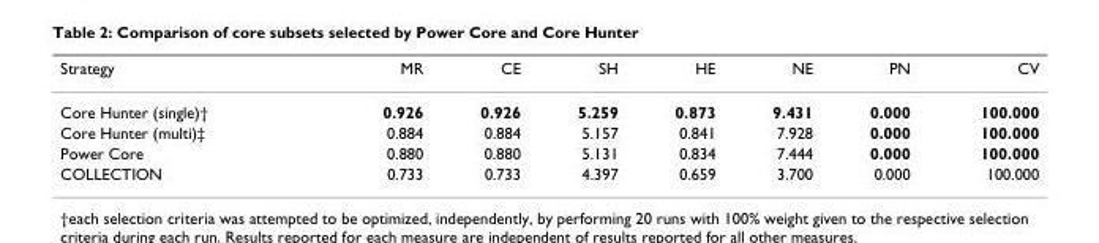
<table><thead><tr><td>Strategy</td><td>MR</td><td>CE</td><td>SH</td><td>HE</td><td>NE</td><td>PN</td><td>CV</td></tr></thead><tbody><tr><td>Core Hunter (single)†</td><td>0.926</td><td>0.926</td><td>5.259</td><td>0.873</td><td>9.431</td><td>0.000</td><td>100.000</td></tr><tr><td>Core Hunter (multi)‡</td><td>0.884</td><td>0.884</td><td>5.157</td><td>0.841</td><td>7.928</td><td>0.000</td><td>100.000</td></tr><tr><td>Power Core</td><td>0.880</td><td>0.880</td><td>5.131</td><td>0.834</td><td>7.444</td><td>0.000</td><td>100.000</td></tr><tr><td>COLLECTION</td><td>0.733</td><td>0.733</td><td>4.397</td><td>0.659</td><td>3.700</td><td>0.000</td><td>100.000</td></tr></tbody></table>